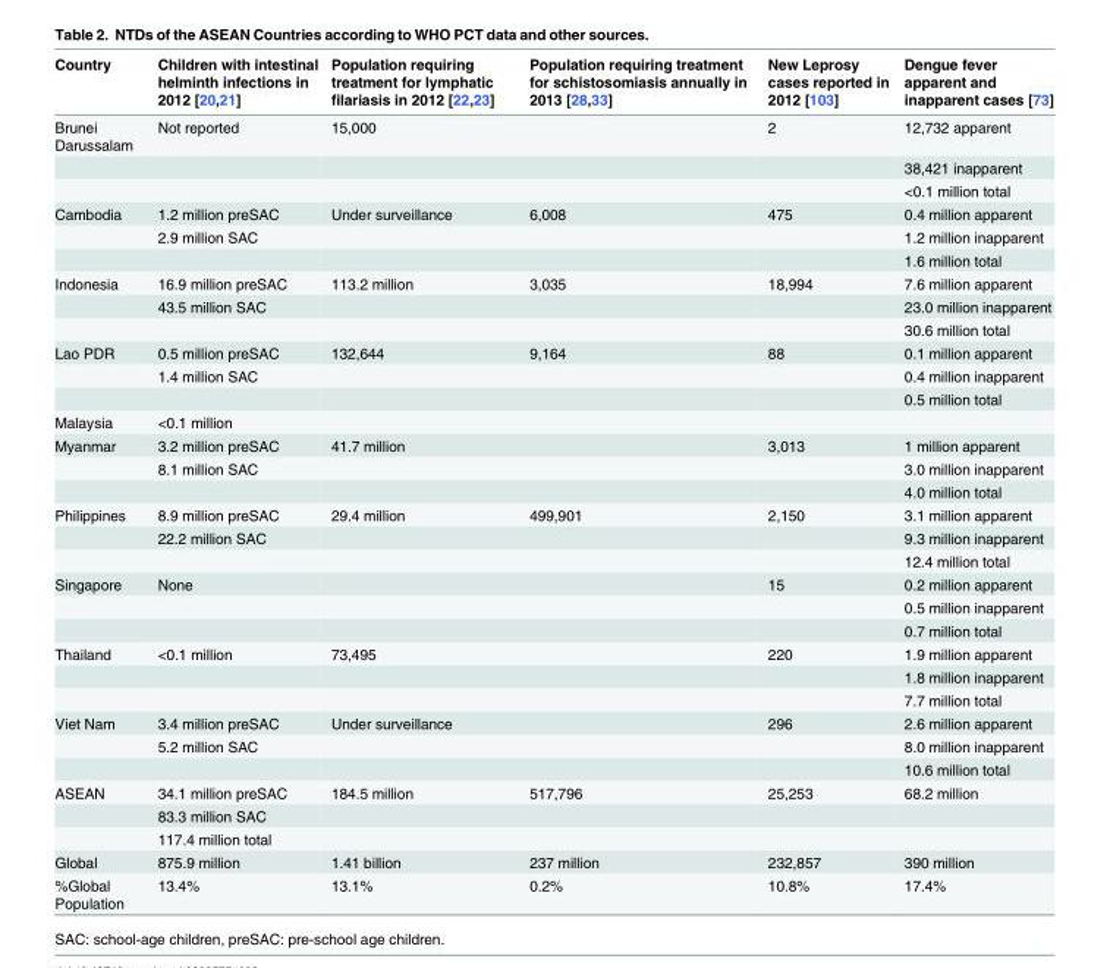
<table><thead><tr><td>Country</td><td>Children with intestinal helminth infections in 2012 [20,21]</td><td>Population requiring treatment for lymphatic filariasis in 2012 [22,23]</td><td>Population requiring treatment for schistosomiasis annually in 2013 [28,33]</td><td>New Leprosy cases reported in 2012 [103]</td><td>Dengue fever apparent and inapparent cases [73]</td></tr></thead><tbody><tr><td rowspan="3">Brunei Darussalam</td><td>Not reported</td><td>15,000</td><td></td><td>2</td><td>12,732 apparent</td></tr><tr><td></td><td></td><td></td><td></td><td>38,421 inapparent</td></tr><tr><td></td><td></td><td></td><td></td><td>&lt;0.1 million total</td></tr><tr><td rowspan="3">Cambodia</td><td>1.2 million preSAC</td><td>Under surveillance</td><td>6,008</td><td>475</td><td>0.4 million apparent</td></tr><tr><td>2.9 million SAC</td><td></td><td></td><td></td><td>1.2 million inapparent</td></tr><tr><td></td><td></td><td></td><td></td><td>1.6 million total</td></tr><tr><td rowspan="3">Indonesia</td><td>16.9 million preSAC</td><td>113.2 million</td><td>3,035</td><td>18,994</td><td>7.6 million apparent</td></tr><tr><td>43.5 million SAC</td><td></td><td></td><td></td><td>23.0 million inapparent</td></tr><tr><td></td><td></td><td></td><td></td><td>30.6 million total</td></tr><tr><td rowspan="3">Lao PDR</td><td>0.5 million preSAC</td><td>132,644</td><td>9,164</td><td>88</td><td>0.1 million apparent</td></tr><tr><td>1.4 million SAC</td><td></td><td></td><td></td><td>0.4 million inapparent</td></tr><tr><td></td><td></td><td></td><td></td><td>0.5 million total</td></tr><tr><td>Malaysia</td><td>&lt;0.1 million</td><td></td><td></td><td></td><td></td></tr><tr><td rowspan="3">Myanmar</td><td>3.2 million preSAC</td><td>41.7 million</td><td></td><td>3,013</td><td>1 million apparent</td></tr><tr><td>8.1 million SAC</td><td></td><td></td><td></td><td>3.0 million inapparent</td></tr><tr><td></td><td></td><td></td><td></td><td>4.0 million total</td></tr><tr><td rowspan="3">Philippines</td><td>8.9 million preSAC</td><td>29.4 million</td><td>499,901</td><td>2,150</td><td>3.1 million apparent</td></tr><tr><td>22.2 million SAC</td><td></td><td></td><td></td><td>9.3 million inapparent</td></tr><tr><td></td><td></td><td></td><td></td><td>12.4 million total</td></tr><tr><td rowspan="3">Singapore</td><td>None</td><td></td><td></td><td>15</td><td>0.2 million apparent</td></tr><tr><td></td><td></td><td></td><td></td><td>0.5 million inapparent</td></tr><tr><td></td><td></td><td></td><td></td><td>0.7 million total</td></tr><tr><td rowspan="3">Thailand</td><td>&lt;0.1 million</td><td>73,495</td><td></td><td>220</td><td>1.9 million apparent</td></tr><tr><td></td><td></td><td></td><td></td><td>1.8 million inapparent</td></tr><tr><td></td><td></td><td></td><td></td><td>7.7 million total</td></tr><tr><td rowspan="3">Viet Nam</td><td>3.4 million preSAC</td><td>Under surveillance</td><td></td><td>296</td><td>2.6 million apparent</td></tr><tr><td>5.2 million SAC</td><td></td><td></td><td></td><td>8.0 million inapparent</td></tr><tr><td></td><td></td><td></td><td></td><td>10.6 million total</td></tr><tr><td rowspan="3">ASEAN</td><td>34.1 million preSAC</td><td>184.5 million</td><td>517,796</td><td>25,253</td><td>68.2 million</td></tr><tr><td>83.3 million SAC</td><td></td><td></td><td></td><td></td></tr><tr><td>117.4 million total</td><td></td><td></td><td></td><td></td></tr><tr><td>Global</td><td>875.9 million</td><td>1.41 billion</td><td>237 million</td><td>232,857</td><td>390 million</td></tr><tr><td>%Global Population</td><td>13.4%</td><td>13.1%</td><td>0.2%</td><td>10.8%</td><td>17.4%</td></tr></tbody></table>